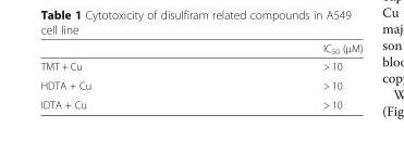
<table><thead><tr><td></td><td>IC<sub>50</sub> (μM)</td></tr></thead><tbody><tr><td>TMT + Cu</td><td>&gt; 10</td></tr><tr><td>HDTA + Cu</td><td>&gt; 10</td></tr><tr><td>IDTA + Cu</td><td>&gt; 10</td></tr></tbody></table>